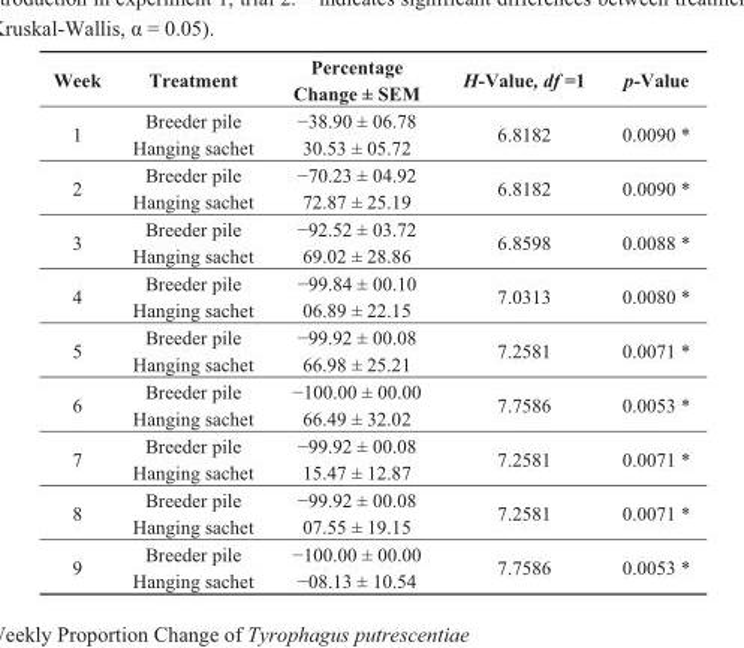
<table><thead><tr><td>Week</td><td>Treatment</td><td>Percentage Change ± SEM</td><td>H-Value, df =1</td><td>p-Value</td></tr></thead><tbody><tr><td rowspan="2">1</td><td>Breeder pile</td><td>−38.90 ± 06.78</td><td rowspan="2">6.8182</td><td rowspan="2">0.0090 *</td></tr><tr><td>Hanging sachet</td><td>30.53 ± 05.72</td></tr><tr><td rowspan="2">2</td><td>Breeder pile</td><td>−70.23 ± 04.92</td><td rowspan="2">6.8182</td><td rowspan="2">0.0090 *</td></tr><tr><td>Hanging sachet</td><td>72.87 ± 25.19</td></tr><tr><td rowspan="2">3</td><td>Breeder pile</td><td>−92.52 ± 03.72</td><td rowspan="2">6.8598</td><td rowspan="2">0.0088 *</td></tr><tr><td>Hanging sachet</td><td>69.02 ± 28.86</td></tr><tr><td rowspan="2">4</td><td>Breeder pile</td><td>−99.84 ± 00.10</td><td rowspan="2">7.0313</td><td rowspan="2">0.0080 *</td></tr><tr><td>Hanging sachet</td><td>06.89 ± 22.15</td></tr><tr><td rowspan="2">5</td><td>Breeder pile</td><td>−99.92 ± 00.08</td><td rowspan="2">7.2581</td><td rowspan="2">0.0071 *</td></tr><tr><td>Hanging sachet</td><td>66.98 ± 25.21</td></tr><tr><td rowspan="2">6</td><td>Breeder pile</td><td>−100.00 ± 00.00</td><td rowspan="2">7.7586</td><td rowspan="2">0.0053 *</td></tr><tr><td>Hanging sachet</td><td>66.49 ± 32.02</td></tr><tr><td rowspan="2">7</td><td>Breeder pile</td><td>−99.92 ± 00.08</td><td rowspan="2">7.2581</td><td rowspan="2">0.0071 *</td></tr><tr><td>Hanging sachet</td><td>15.47 ± 12.87</td></tr><tr><td rowspan="2">8</td><td>Breeder pile</td><td>−99.92 ± 00.08</td><td rowspan="2">7.2581</td><td rowspan="2">0.0071 *</td></tr><tr><td>Hanging sachet</td><td>07.55 ± 19.15</td></tr><tr><td rowspan="2">9</td><td>Breeder pile</td><td>−100.00 ± 00.00</td><td rowspan="2">7.7586</td><td rowspan="2">0.0053 *</td></tr><tr><td>Hanging sachet</td><td>−08.13 ± 10.54</td></tr></tbody></table>